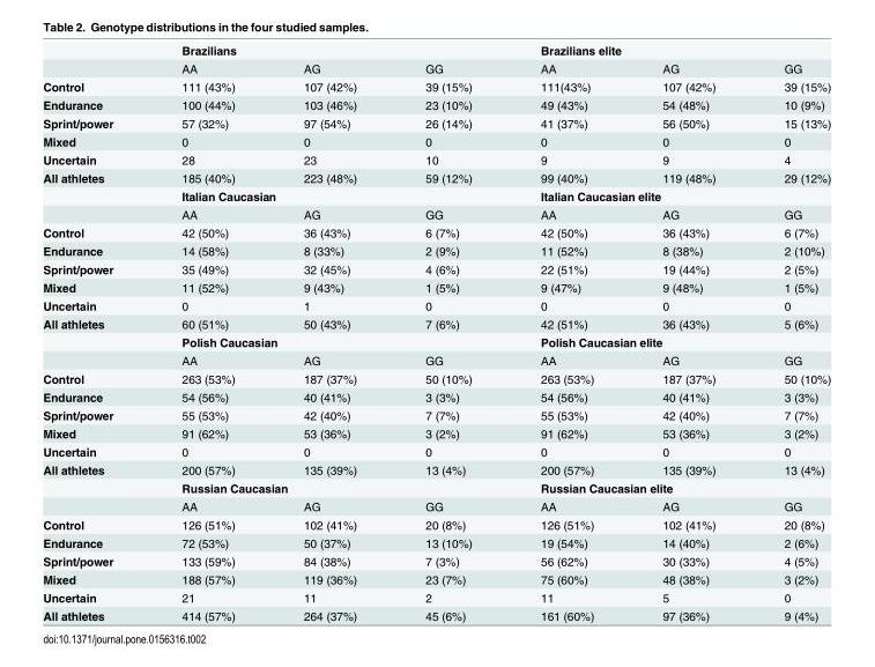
<table><thead><tr><td rowspan="2"></td><td colspan="3">Brazilians</td><td colspan="3">Brazilians elite</td></tr><tr><td>AA</td><td>AG</td><td>GG</td><td>AA</td><td>AG</td><td>GG</td></tr></thead><tbody><tr><td>Control</td><td>111 (43%)</td><td>107 (42%)</td><td>39 (15%)</td><td>111(43%)</td><td>107 (42%)</td><td>39 (15%)</td></tr><tr><td>Endurance</td><td>100 (44%)</td><td>103 (46%)</td><td>23 (10%)</td><td>49 (43%)</td><td>54 (48%)</td><td>10 (9%)</td></tr><tr><td>Sprint/power</td><td>57 (32%)</td><td>97 (54%)</td><td>26 (14%)</td><td>41 (37%)</td><td>56 (50%)</td><td>15 (13%)</td></tr><tr><td>Mixed</td><td>0</td><td>0</td><td>0</td><td>0</td><td>0</td><td>0</td></tr><tr><td>Uncertain</td><td>28</td><td>23</td><td>10</td><td>9</td><td>9</td><td>4</td></tr><tr><td rowspan="3">All athletes</td><td>185 (40%)</td><td>223 (48%)</td><td>59 (12%)</td><td>99 (40%)</td><td>119 (48%)</td><td>29 (12%)</td></tr><tr><td colspan="3">Italian Caucasian</td><td colspan="3">Italian Caucasian elite</td></tr><tr><td>AA</td><td>AG</td><td>GG</td><td>AA</td><td>AG</td><td>GG</td></tr><tr><td>Control</td><td>42 (50%)</td><td>36 (43%)</td><td>6 (7%)</td><td>42 (50%)</td><td>36 (43%)</td><td>6 (7%)</td></tr><tr><td>Endurance</td><td>14 (58%)</td><td>8 (33%)</td><td>2 (9%)</td><td>11 (52%)</td><td>8 (38%)</td><td>2 (10%)</td></tr><tr><td>Sprint/power</td><td>35 (49%)</td><td>32 (45%)</td><td>4 (6%)</td><td>22 (51%)</td><td>19 (44%)</td><td>2 (5%)</td></tr><tr><td>Mixed</td><td>11 (52%)</td><td>9 (43%)</td><td>1 (5%)</td><td>9 (47%)</td><td>9 (48%)</td><td>1 (5%)</td></tr><tr><td>Uncertain</td><td>0</td><td>1</td><td>0</td><td>0</td><td>0</td><td>0</td></tr><tr><td rowspan="3">All athletes</td><td>60 (51%)</td><td>50 (43%)</td><td>7 (6%)</td><td>42 (51%)</td><td>36 (43%)</td><td>5 (6%)</td></tr><tr><td colspan="3">Polish Caucasian</td><td colspan="3">Polish Caucasian elite</td></tr><tr><td>AA</td><td>AG</td><td>GG</td><td>AA</td><td>AG</td><td>GG</td></tr><tr><td>Control</td><td>263 (53%)</td><td>187 (37%)</td><td>50 (10%)</td><td>263 (53%)</td><td>187 (37%)</td><td>50 (10%)</td></tr><tr><td>Endurance</td><td>54 (56%)</td><td>40 (41%)</td><td>3 (3%)</td><td>54 (56%)</td><td>40 (41%)</td><td>3 (3%)</td></tr><tr><td>Sprint/power</td><td>55 (53%)</td><td>42 (40%)</td><td>7 (7%)</td><td>55 (53%)</td><td>42 (40%)</td><td>7 (7%)</td></tr><tr><td>Mixed</td><td>91 (62%)</td><td>53 (36%)</td><td>3 (2%)</td><td>91 (62%)</td><td>53 (36%)</td><td>3 (2%)</td></tr><tr><td>Uncertain</td><td>0</td><td>0</td><td>0</td><td>0</td><td>0</td><td>0</td></tr><tr><td rowspan="3">All athletes</td><td>200 (57%)</td><td>135 (39%)</td><td>13 (4%)</td><td>200 (57%)</td><td>135 (39%)</td><td>13 (4%)</td></tr><tr><td colspan="3">Russian Caucasian</td><td colspan="3">Russian Caucasian elite</td></tr><tr><td>AA</td><td>AG</td><td>GG</td><td>AA</td><td>AG</td><td>GG</td></tr><tr><td>Control</td><td>126 (51%)</td><td>102 (41%)</td><td>20 (8%)</td><td>126 (51%)</td><td>102 (41%)</td><td>20 (8%)</td></tr><tr><td>Endurance</td><td>72 (53%)</td><td>50 (37%)</td><td>13 (10%)</td><td>19 (54%)</td><td>14 (40%)</td><td>2 (6%)</td></tr><tr><td>Sprint/power</td><td>133 (59%)</td><td>84 (38%)</td><td>7 (3%)</td><td>56 (62%)</td><td>30 (33%)</td><td>4 (5%)</td></tr><tr><td>Mixed</td><td>188 (57%)</td><td>119 (36%)</td><td>23 (7%)</td><td>75 (60%)</td><td>48 (38%)</td><td>3 (2%)</td></tr><tr><td>Uncertain</td><td>21</td><td>11</td><td>2</td><td>11</td><td>5</td><td>0</td></tr><tr><td>All athletes</td><td>414 (57%)</td><td>264 (37%)</td><td>45 (6%)</td><td>161 (60%)</td><td>97 (36%)</td><td>9 (4%)</td></tr></tbody></table>